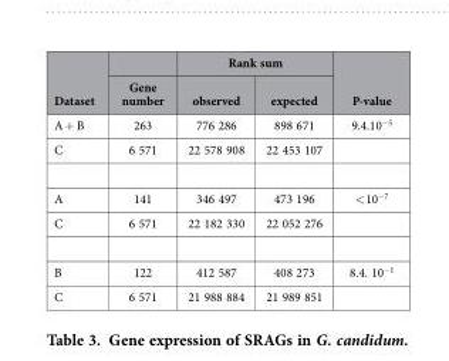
<table><thead><tr><td rowspan="2">Dataset</td><td colspan="3">Rank sum</td><td rowspan="2">P-value</td></tr><tr><td>Gene number</td><td>observed</td><td>expected</td></tr></thead><tbody><tr><td>A + B</td><td>263</td><td>776 286</td><td>898 671</td><td>9.4.10<sup>−5</sup></td></tr><tr><td>C</td><td>6 571</td><td>22 578 908</td><td>22 453 107</td><td></td></tr><tr><td>A</td><td>141</td><td>346 497</td><td>473 196</td><td>&lt; 10<sup>−7</sup></td></tr><tr><td>C</td><td>6 571</td><td>22 182 330</td><td>22 052 276</td><td></td></tr><tr><td>B</td><td>122</td><td>412 587</td><td>408 273</td><td>8.4. 10<sup>−1</sup></td></tr><tr><td>C</td><td>6 571</td><td>21 988 884</td><td>21 989 851</td><td></td></tr></tbody></table>